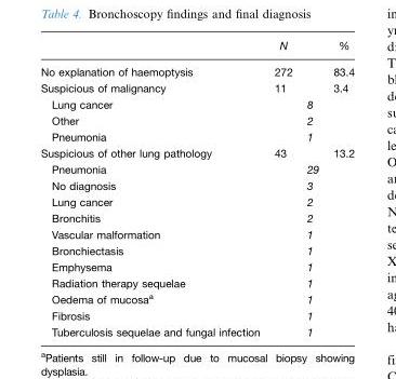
<table><thead><tr><td></td><td>N</td><td></td><td>%</td></tr></thead><tbody><tr><td>No explanation of haemoptysis</td><td>272</td><td></td><td>83.4</td></tr><tr><td>Suspicious of malignancy</td><td>11</td><td></td><td>3.4</td></tr><tr><td>Lung cancer</td><td></td><td>8</td><td></td></tr><tr><td>Other</td><td></td><td>2</td><td></td></tr><tr><td>Pneumonia</td><td></td><td>1</td><td></td></tr><tr><td>Suspicious of other lung pathology</td><td>43</td><td></td><td>13.2</td></tr><tr><td>Pneumonia</td><td></td><td>29</td><td></td></tr><tr><td>No diagnosis</td><td></td><td>3</td><td></td></tr><tr><td>Lung cancer</td><td></td><td>2</td><td></td></tr><tr><td>Bronchitis</td><td></td><td>2</td><td></td></tr><tr><td>Vascular malformation</td><td></td><td>1</td><td></td></tr><tr><td>Bronchiectasis</td><td></td><td>1</td><td></td></tr><tr><td>Emphysema</td><td></td><td>1</td><td></td></tr><tr><td>Radiation therapy sequelae</td><td></td><td>1</td><td></td></tr><tr><td>Oedema of mucosa<sup>a</sup></td><td></td><td>1</td><td></td></tr><tr><td>Fibrosis</td><td></td><td>1</td><td></td></tr><tr><td>Tuberculosis sequelae and fungal infection</td><td></td><td>1</td><td></td></tr></tbody></table>